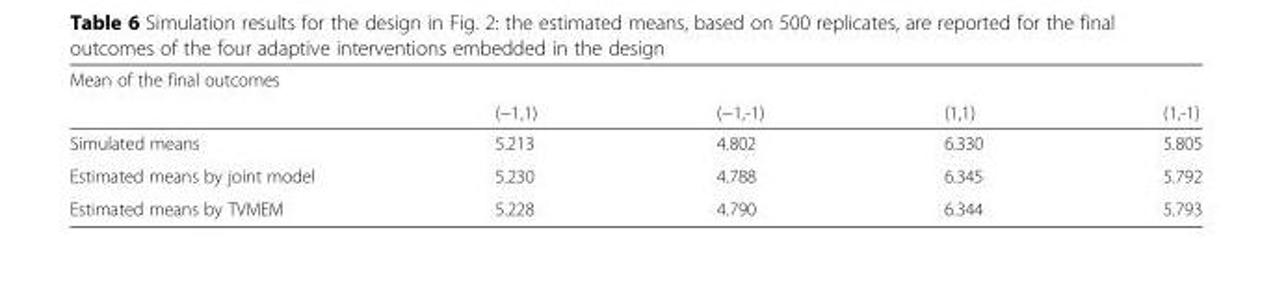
<table><tbody><tr><td colspan="5">Mean of the final outcomes</td></tr><tr><td></td><td>(−1,1)</td><td>(−1,-1)</td><td>(1,1)</td><td>(1,-1)</td></tr><tr><td>Simulated means</td><td>5.213</td><td>4.802</td><td>6.330</td><td>5.805</td></tr><tr><td>Estimated means by joint model</td><td>5.230</td><td>4.788</td><td>6.345</td><td>5.792</td></tr><tr><td>Estimated means by TVMEM</td><td>5.228</td><td>4.790</td><td>6.344</td><td>5.793</td></tr></tbody></table>